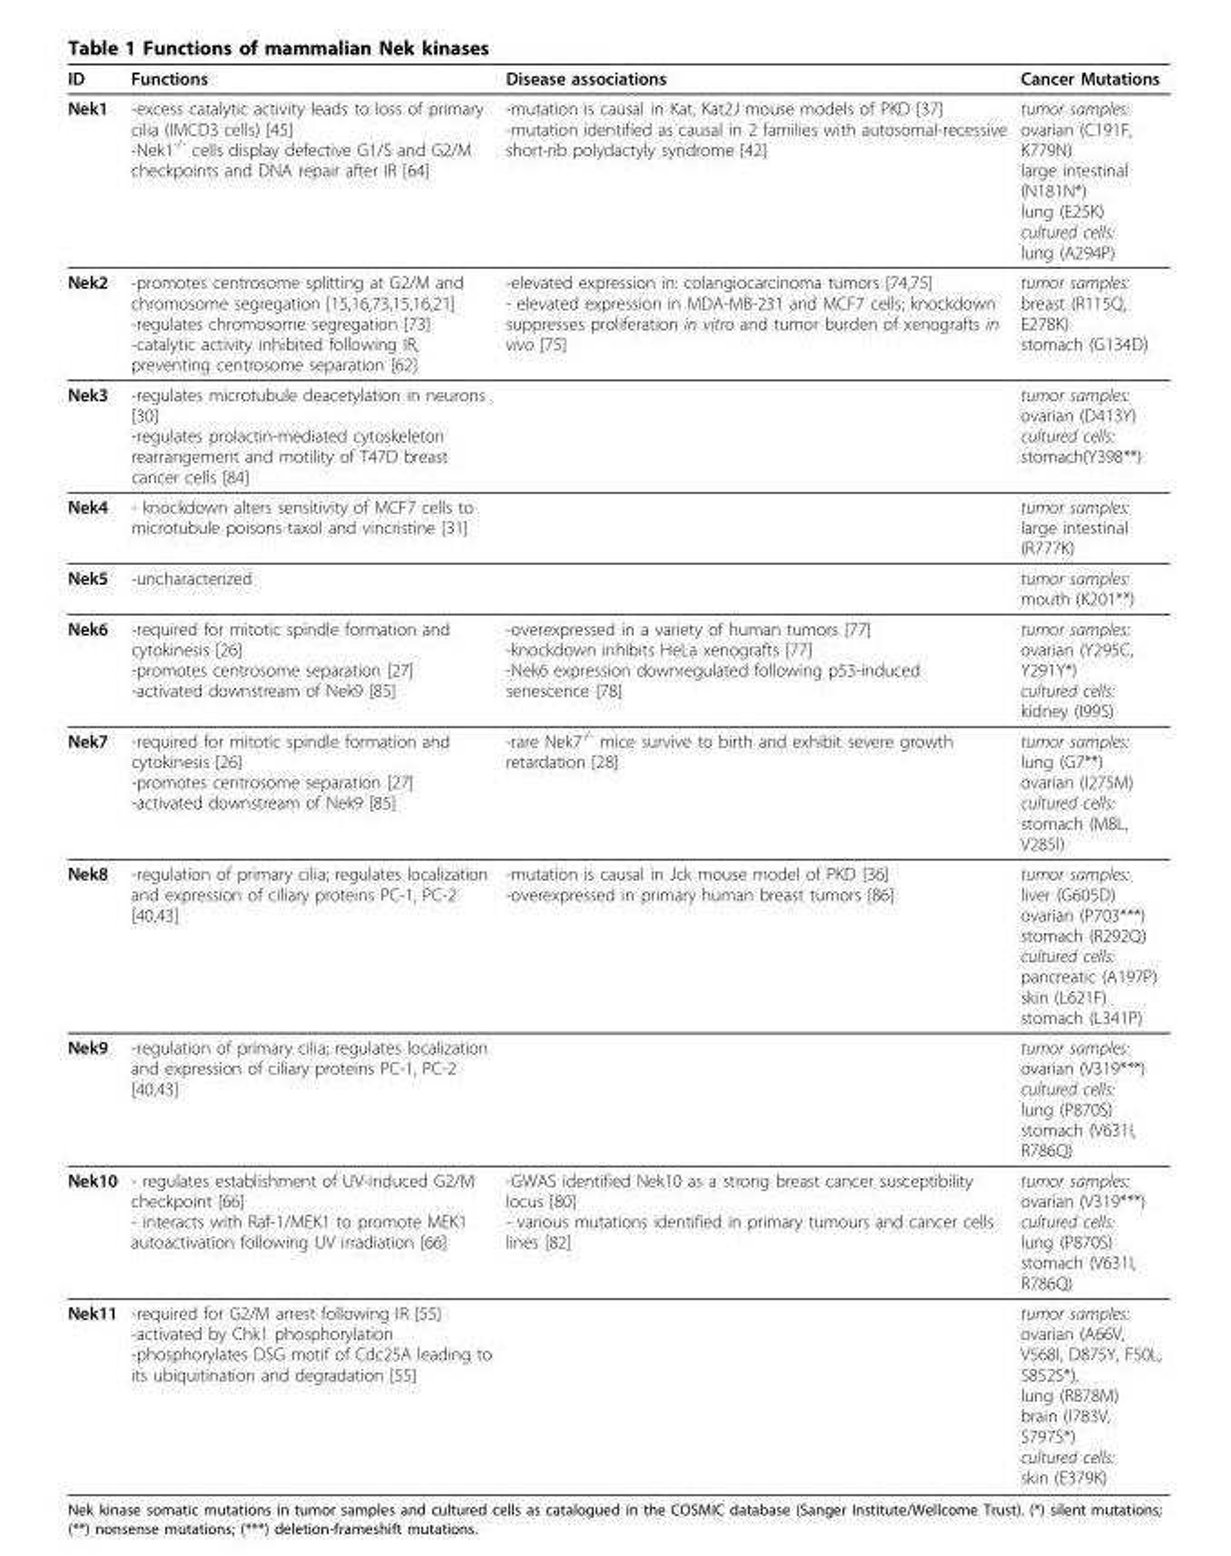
<table><thead><tr><td>ID</td><td>Functions</td><td>Disease associations</td><td>Cancer Mutations</td></tr></thead><tbody><tr><td>Nek1</td><td>-excess catalytic activity leads to loss of primary cilia (IMCD3 cells) [45] -Nek1<sup>-/-</sup> cells display defective G1/S and G2/M checkpoints and DNA repair after IR [64]</td><td>-mutation is causal in Kat, Kat2J mouse models of PKD [37] -mutation identified as causal in 2 families with autosomal-recessive short-rib polydactyly syndrome [42]</td><td>tumor samples: ovarian (C191F, K779N) large intestinal (N181N*) lung (E25K) cultured cells: lung (A294P)</td></tr><tr><td>Nek2</td><td>-promotes centrosome splitting at G2/M and chromosome segregation [15,16,73,15,16,21] -regulates chromosome segregation [73] -catalytic activity inhibited following IR, preventing centrosome separation [62]</td><td>-elevated expression in: colangiocarcinoma tumors [74,75] - elevated expression in MDA-MB-231 and MCF7 cells; knockdown suppresses proliferation in vitro and tumor burden of xenografts in vivo [75]</td><td>tumor samples: breast (R115Q, E278K) stomach (G134D)</td></tr><tr><td>Nek3</td><td>-regulates microtubule deacetylation in neurons [30] -regulates prolactin-mediated cytoskeleton rearrangement and motility of T47D breast cancer cells [84]</td><td></td><td>tumor samples: ovarian (D413Y) cultured cells: stomach(Y398**)</td></tr><tr><td>Nek4</td><td>- knockdown alters sensitivity of MCF7 cells to microtubule poisons taxol and vincristine [31]</td><td></td><td>tumor samples: large intestinal (R777K)</td></tr><tr><td>Nek5</td><td>-uncharacterized</td><td></td><td>tumor samples: mouth (K201**)</td></tr><tr><td>Nek6</td><td>-required for mitotic spindle formation and cytokinesis [26] -promotes centrosome separation [27] -activated downstream of Nek9 [85]</td><td>-overexpressed in a variety of human tumors [77] -knockdown inhibits HeLa xenografts [77] -Nek6 expression downregulated following p53-induced senescence [78]</td><td>tumor samples: ovarian (Y295C, Y291Y*) cultured cells: kidney (I99S)</td></tr><tr><td>Nek7</td><td>-required for mitotic spindle formation and cytokinesis [26] -promotes centrosome separation [27] -activated downstream of Nek9 [85]</td><td>-rare Nek7<sup>-/-</sup> mice survive to birth and exhibit severe growth retardation [28]</td><td>tumor samples: lung (G7**) ovarian (I275M) cultured cells: stomach (M8L, V285I)</td></tr><tr><td>Nek8</td><td>-regulation of primary cilia; regulates localization and expression of ciliary proteins PC-1, PC-2 [40,43]</td><td>-mutation is causal in Jck mouse model of PKD [36] -overexpressed in primary human breast tumors [86]</td><td>tumor samples: liver (G605D) ovarian (P703***) stomach (R292Q) cultured cells: pancreatic (A197P) skin (L621F) stomach (L341P)</td></tr><tr><td>Nek9</td><td>-regulation of primary cilia; regulates localization and expression of ciliary proteins PC-1, PC-2 [40,43]</td><td></td><td>tumor samples: ovarian (V319***) cultured cells: lung (P870S) stomach (V631I, R786Q)</td></tr><tr><td>Nek10</td><td>- regulates establishment of UV-induced G2/M checkpoint [66] - interacts with Raf-1/MEK1 to promote MEK1 autoactivation following UV irradiation [66]</td><td>-GWAS identified Nek10 as a strong breast cancer susceptibility locus [80] - various mutations identified in primary tumours and cancer cells lines [82]</td><td>tumor samples: ovarian (V319***) cultured cells: lung (P870S) stomach (V631I, R786Q)</td></tr><tr><td>Nek11</td><td>-required for G2/M arrest following IR [55] -activated by Chk1 phosphorylation -phosphorylates DSG motif of Cdc25A leading to its ubiquitination and degradation [55]</td><td></td><td>tumor samples: ovarian (A66V, V568I, D875Y, F50L, S852S*), lung (R878M) brain (I783V, S797S*) cultured cells: skin (E379K)</td></tr></tbody></table>